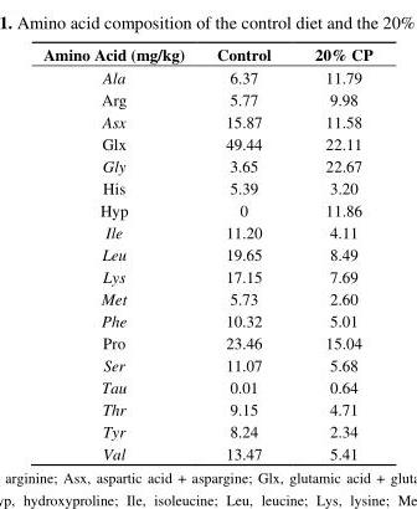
<table><thead><tr><td>Amino Acid (mg/kg)</td><td>Control</td><td>20% CP</td></tr></thead><tbody><tr><td>Ala</td><td>6.37</td><td>11.79</td></tr><tr><td>Arg</td><td>5.77</td><td>9.98</td></tr><tr><td>Asx</td><td>15.87</td><td>11.58</td></tr><tr><td>Glx</td><td>49.44</td><td>22.11</td></tr><tr><td>Gly</td><td>3.65</td><td>22.67</td></tr><tr><td>His</td><td>5.39</td><td>3.20</td></tr><tr><td>Hyp</td><td>0</td><td>11.86</td></tr><tr><td>Ile</td><td>11.20</td><td>4.11</td></tr><tr><td>Leu</td><td>19.65</td><td>8.49</td></tr><tr><td>Lys</td><td>17.15</td><td>7.69</td></tr><tr><td>Met</td><td>5.73</td><td>2.60</td></tr><tr><td>Phe</td><td>10.32</td><td>5.01</td></tr><tr><td>Pro</td><td>23.46</td><td>15.04</td></tr><tr><td>Ser</td><td>11.07</td><td>5.68</td></tr><tr><td>Tau</td><td>0.01</td><td>0.64</td></tr><tr><td>Thr</td><td>9.15</td><td>4.71</td></tr><tr><td>Tyr</td><td>8.24</td><td>2.34</td></tr><tr><td>Val</td><td>13.47</td><td>5.41</td></tr></tbody></table>